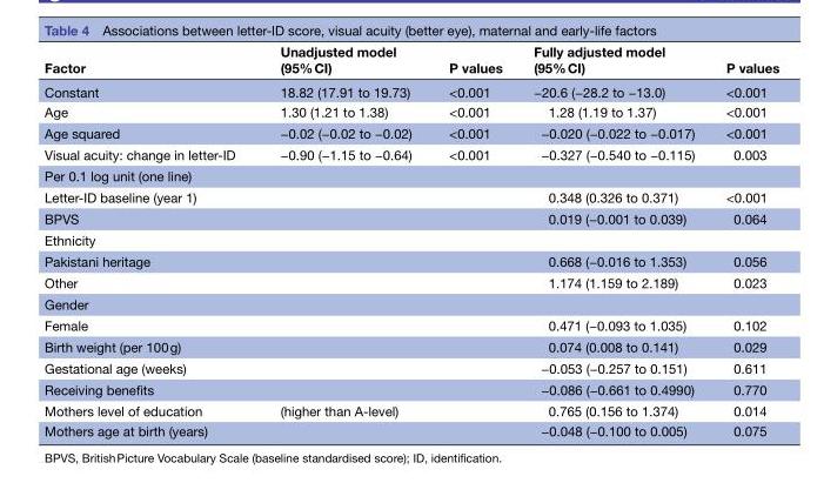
<table><thead><tr><td>Factor</td><td>Unadjusted model (95% CI)</td><td>P values</td><td>Fully adjusted model (95% CI)</td><td>P values</td></tr></thead><tbody><tr><td>Constant</td><td>18.82 (17.91 to 19.73)</td><td>&lt;0.001</td><td>−20.6 (−28.2 to −13.0)</td><td>&lt;0.001</td></tr><tr><td>Age</td><td>1.30 (1.21 to 1.38)</td><td>&lt;0.001</td><td>1.28 (1.19 to 1.37)</td><td>&lt;0.001</td></tr><tr><td>Age squared</td><td>−0.02 (−0.02 to −0.02)</td><td>&lt;0.001</td><td>−0.020 (−0.022 to −0.017)</td><td>&lt;0.001</td></tr><tr><td>Visual acuity: change in letter-ID</td><td>−0.90 (−1.15 to −0.64)</td><td>&lt;0.001</td><td>−0.327 (−0.540 to −0.115)</td><td>0.003</td></tr><tr><td colspan="5">Per 0.1 log unit (one line)</td></tr><tr><td>Letter-ID baseline (year 1)</td><td></td><td></td><td>0.348 (0.326 to 0.371)</td><td>&lt;0.001</td></tr><tr><td>BPVS</td><td></td><td></td><td>0.019 (−0.001 to 0.039)</td><td>0.064</td></tr><tr><td colspan="5">Ethnicity</td></tr><tr><td>Pakistani heritage</td><td></td><td></td><td>0.668 (−0.016 to 1.353)</td><td>0.056</td></tr><tr><td>Other</td><td></td><td></td><td>1.174 (1.159 to 2.189)</td><td>0.023</td></tr><tr><td colspan="5">Gender</td></tr><tr><td>Female</td><td></td><td></td><td>0.471 (−0.093 to 1.035)</td><td>0.102</td></tr><tr><td>Birth weight (per 100 g)</td><td></td><td></td><td>0.074 (0.008 to 0.141)</td><td>0.029</td></tr><tr><td>Gestational age (weeks)</td><td></td><td></td><td>−0.053 (−0.257 to 0.151)</td><td>0.611</td></tr><tr><td>Receiving benefits</td><td></td><td></td><td>−0.086 (−0.661 to 0.4990)</td><td>0.770</td></tr><tr><td>Mothers level of education</td><td>(higher than A-level)</td><td></td><td>0.765 (0.156 to 1.374)</td><td>0.014</td></tr><tr><td>Mothers age at birth (years)</td><td></td><td></td><td>−0.048 (−0.100 to 0.005)</td><td>0.075</td></tr></tbody></table>